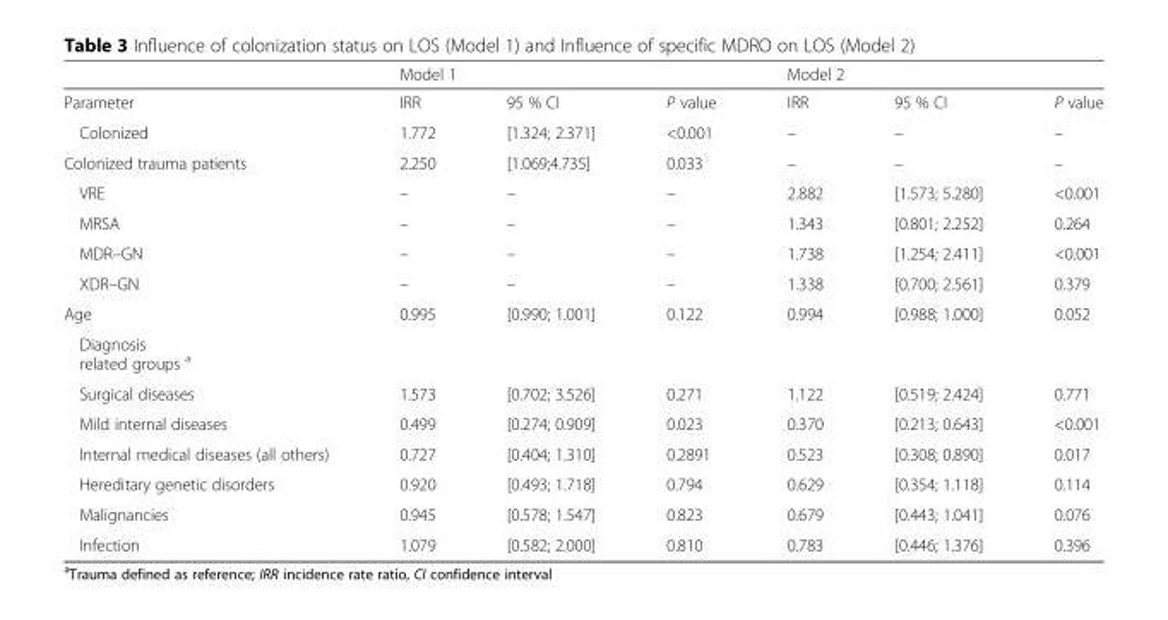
<table><thead><tr><td rowspan="2">Parameter</td><td colspan="3">Model 1</td><td colspan="3">Model 2</td></tr><tr><td>IRR</td><td>95 % CI</td><td>P value</td><td>IRR</td><td>95 % CI</td><td>P value</td></tr></thead><tbody><tr><td>Colonized</td><td>1.772</td><td>[1.324; 2.371]</td><td>&lt;0.001</td><td>–</td><td>–</td><td>–</td></tr><tr><td>Colonized trauma patients</td><td>2.250</td><td>[1.069;4.735]</td><td>0.033</td><td>–</td><td>–</td><td>–</td></tr><tr><td>VRE</td><td>–</td><td>–</td><td>–</td><td>2.882</td><td>[1.573; 5.280]</td><td>&lt;0.001</td></tr><tr><td>MRSA</td><td>–</td><td>–</td><td>–</td><td>1.343</td><td>[0.801; 2.252]</td><td>0.264</td></tr><tr><td>MDR–GN</td><td>–</td><td>–</td><td>–</td><td>1.738</td><td>[1.254; 2.411]</td><td>&lt;0.001</td></tr><tr><td>XDR–GN</td><td>–</td><td>–</td><td>–</td><td>1.338</td><td>[0.700; 2.561]</td><td>0.379</td></tr><tr><td>Age</td><td>0.995</td><td>[0.990; 1.001]</td><td>0.122</td><td>0.994</td><td>[0.988; 1.000]</td><td>0.052</td></tr><tr><td colspan="7">Diagnosis related groups <sup>a</sup></td></tr><tr><td>Surgical diseases</td><td>1.573</td><td>[0.702; 3.526]</td><td>0.271</td><td>1.122</td><td>[0.519; 2.424]</td><td>0.771</td></tr><tr><td>Mild internal diseases</td><td>0.499</td><td>[0.274; 0.909]</td><td>0.023</td><td>0.370</td><td>[0.213; 0.643]</td><td>&lt;0.001</td></tr><tr><td>Internal medical diseases (all others)</td><td>0.727</td><td>[0.404; 1.310]</td><td>0.2891</td><td>0.523</td><td>[0.308; 0.890]</td><td>0.017</td></tr><tr><td>Hereditary genetic disorders</td><td>0.920</td><td>[0.493; 1.718]</td><td>0.794</td><td>0.629</td><td>[0.354; 1.118]</td><td>0.114</td></tr><tr><td>Malignancies</td><td>0.945</td><td>[0.578; 1.547]</td><td>0.823</td><td>0.679</td><td>[0.443; 1.041]</td><td>0.076</td></tr><tr><td>Infection</td><td>1.079</td><td>[0.582; 2.000]</td><td>0.810</td><td>0.783</td><td>[0.446; 1.376]</td><td>0.396</td></tr></tbody></table>